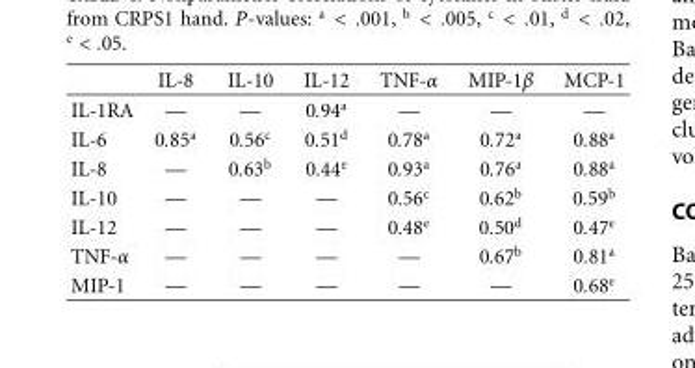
<table><thead><tr><td></td><td>IL-8</td><td>IL-10</td><td>IL-12</td><td>TNF-α</td><td>MIP-1β</td><td>MCP-1</td></tr></thead><tbody><tr><td>IL-1RA</td><td>—</td><td>—</td><td>0.94<sup>a</sup></td><td>—</td><td>—</td><td>—</td></tr><tr><td>IL-6</td><td>0.85<sup>a</sup></td><td>0.56<sup>c</sup></td><td>0.51<sup>d</sup></td><td>0.78<sup>a</sup></td><td>0.72<sup>a</sup></td><td>0.88<sup>a</sup></td></tr><tr><td>IL-8</td><td>—</td><td>0.63<sup>b</sup></td><td>0.44<sup>e</sup></td><td>0.93<sup>a</sup></td><td>0.76<sup>a</sup></td><td>0.88<sup>a</sup></td></tr><tr><td>IL-10</td><td>—</td><td>—</td><td>—</td><td>0.56<sup>c</sup></td><td>0.62<sup>b</sup></td><td>0.59<sup>b</sup></td></tr><tr><td>IL-12</td><td>—</td><td>—</td><td>—</td><td>0.48<sup>e</sup></td><td>0.50<sup>d</sup></td><td>0.47<sup>e</sup></td></tr><tr><td>TNF-α</td><td>—</td><td>—</td><td>—</td><td>—</td><td>0.67<sup>b</sup></td><td>0.81<sup>a</sup></td></tr><tr><td>MIP-1</td><td>—</td><td>—</td><td>—</td><td>—</td><td>—</td><td>0.68<sup>e</sup></td></tr></tbody></table>